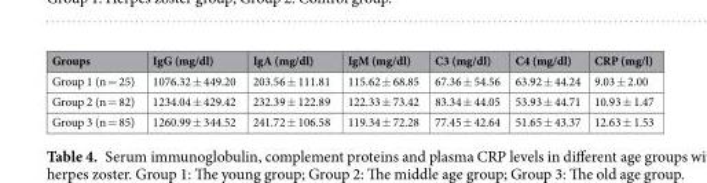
<table><thead><tr><td>Groups</td><td>IgG (mg/dl)</td><td>IgA (mg/dl)</td><td>IgM (mg/dl)</td><td>C3 (mg/dl)</td><td>C4 (mg/dl)</td><td>CRP (mg/l)</td></tr></thead><tbody><tr><td>Group 1 (n = 25)</td><td>1076.32 ± 449.20</td><td>203.56 ± 111.81</td><td>115.62 ± 68.85</td><td>67.36 ± 54.56</td><td>63.92 ± 44.24</td><td>9.03 ± 2.00</td></tr><tr><td>Group 2 (n = 82)</td><td>1234.04 ± 429.42</td><td>232.39 ± 122.89</td><td>122.33 ± 73.42</td><td>83.34 ± 44.05</td><td>53.93 ± 44.71</td><td>10.93 ± 1.47</td></tr><tr><td>Group 3 (n = 85)</td><td>1260.99 ± 344.52</td><td>241.72 ± 106.58</td><td>119.34 ± 72.28</td><td>77.45 ± 42.64</td><td>51.65 ± 43.37</td><td>12.63 ± 1.53</td></tr></tbody></table>